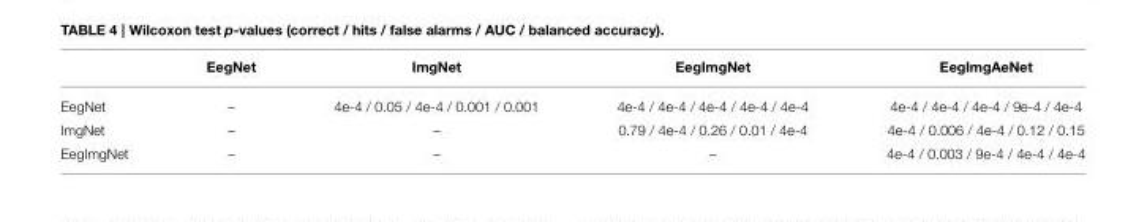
<table><thead><tr><td></td><td>EegNet</td><td>ImgNet</td><td>EegImgNet</td><td>EegImgAeNet</td></tr></thead><tbody><tr><td>EegNet</td><td>–</td><td>4e-4 / 0.05 / 4e-4 / 0.001 / 0.001</td><td>4e-4 / 4e-4 / 4e-4 / 4e-4 / 4e-4</td><td>4e-4 / 4e-4 / 4e-4 / 9e-4 / 4e-4</td></tr><tr><td>ImgNet</td><td>–</td><td>–</td><td>0.79 / 4e-4 / 0.26 / 0.01 / 4e-4</td><td>4e-4 / 0.006 / 4e-4 / 0.12 / 0.15</td></tr><tr><td>EegImgNet</td><td>–</td><td>–</td><td>–</td><td>4e-4 / 0.003 / 9e-4 / 4e-4 / 4e-4</td></tr></tbody></table>